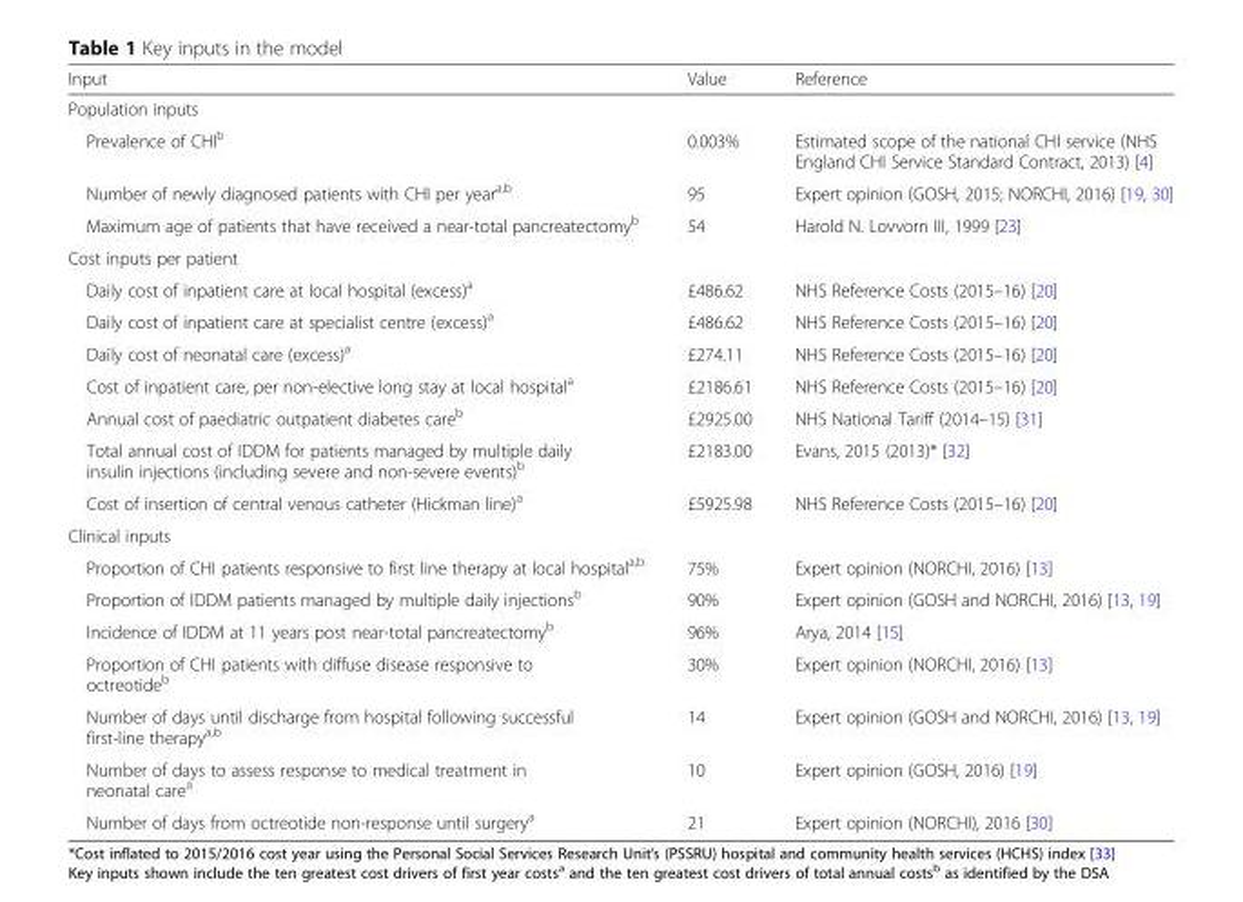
<table><thead><tr><td>Input</td><td>Value</td><td>Reference</td></tr></thead><tbody><tr><td colspan="3">Population inputs</td></tr><tr><td>Prevalence of CHI<sup>b</sup></td><td>0.003%</td><td>Estimated scope of the national CHI service (NHS England CHI Service Standard Contract, 2013) [4]</td></tr><tr><td>Number of newly diagnosed patients with CHI per year<sup>a,b</sup></td><td>95</td><td>Expert opinion (GOSH, 2015; NORCHI, 2016) [19, 30]</td></tr><tr><td>Maximum age of patients that have received a near-total pancreatectomy<sup>b</sup></td><td>54</td><td>Harold N. Lovvorn III, 1999 [23]</td></tr><tr><td colspan="3">Cost inputs per patient</td></tr><tr><td>Daily cost of inpatient care at local hospital (excess)<sup>a</sup></td><td>£486.62</td><td>NHS Reference Costs (2015–16) [20]</td></tr><tr><td>Daily cost of inpatient care at specialist centre (excess)<sup>a</sup></td><td>£486.62</td><td>NHS Reference Costs (2015–16) [20]</td></tr><tr><td>Daily cost of neonatal care (excess)<sup>a</sup></td><td>£274.11</td><td>NHS Reference Costs (2015–16) [20]</td></tr><tr><td>Cost of inpatient care, per non-elective long stay at local hospital<sup>a</sup></td><td>£2186.61</td><td>NHS Reference Costs (2015–16) [20]</td></tr><tr><td>Annual cost of paediatric outpatient diabetes care<sup>b</sup></td><td>£2925.00</td><td>NHS National Tariff (2014–15) [31]</td></tr><tr><td>Total annual cost of IDDM for patients managed by multiple daily insulin injections (including severe and non-severe events)<sup>b</sup></td><td>£2183.00</td><td>Evans, 2015 (2013)* [32]</td></tr><tr><td>Cost of insertion of central venous catheter (Hickman line)<sup>a</sup></td><td>£5925.98</td><td>NHS Reference Costs (2015–16) [20]</td></tr><tr><td colspan="3">Clinical inputs</td></tr><tr><td>Proportion of CHI patients responsive to first line therapy at local hospital<sup>a,b</sup></td><td>75%</td><td>Expert opinion (NORCHI, 2016) [13]</td></tr><tr><td>Proportion of IDDM patients managed by multiple daily injections<sup>b</sup></td><td>90%</td><td>Expert opinion (GOSH and NORCHI, 2016) [13, 19]</td></tr><tr><td>Incidence of IDDM at 11 years post near-total pancreatectomy<sup>b</sup></td><td>96%</td><td>Arya, 2014 [15]</td></tr><tr><td>Proportion of CHI patients with diffuse disease responsive to octreotide<sup>b</sup></td><td>30%</td><td>Expert opinion (NORCHI, 2016) [13]</td></tr><tr><td>Number of days until discharge from hospital following successful first-line therapy<sup>a,b</sup></td><td>14</td><td>Expert opinion (GOSH and NORCHI, 2016) [13, 19]</td></tr><tr><td>Number of days to assess response to medical treatment in neonatal care<sup>a</sup></td><td>10</td><td>Expert opinion (GOSH, 2016) [19]</td></tr><tr><td>Number of days from octreotide non-response until surgery<sup>a</sup></td><td>21</td><td>Expert opinion (NORCHI), 2016 [30]</td></tr></tbody></table>